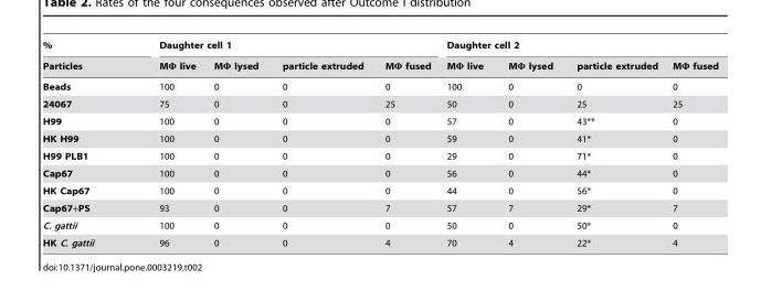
<table><thead><tr><td rowspan="2">% Particles</td><td colspan="4">Daughter cell 1</td><td colspan="4">Daughter cell 2</td></tr><tr><td>MΦ live</td><td>MΦ lysed</td><td>particle extruded</td><td>MΦ fused</td><td>MΦ live</td><td>MΦ lysed</td><td>particle extruded</td><td>MΦ fused</td></tr></thead><tbody><tr><td>Beads</td><td>100</td><td>0</td><td>0</td><td>0</td><td>100</td><td>0</td><td>0</td><td>0</td></tr><tr><td>24067</td><td>75</td><td>0</td><td>0</td><td>25</td><td>50</td><td>0</td><td>25</td><td>25</td></tr><tr><td>H99</td><td>100</td><td>0</td><td>0</td><td>0</td><td>57</td><td>0</td><td>43**</td><td>0</td></tr><tr><td>HK H99</td><td>100</td><td>0</td><td>0</td><td>0</td><td>59</td><td>0</td><td>41*</td><td>0</td></tr><tr><td>H99 PLB1</td><td>100</td><td>0</td><td>0</td><td>0</td><td>29</td><td>0</td><td>71*</td><td>0</td></tr><tr><td>Cap67</td><td>100</td><td>0</td><td>0</td><td>0</td><td>56</td><td>0</td><td>44*</td><td>0</td></tr><tr><td>HK Cap67</td><td>100</td><td>0</td><td>0</td><td>0</td><td>44</td><td>0</td><td>56*</td><td>0</td></tr><tr><td>Cap67+PS</td><td>93</td><td>0</td><td>0</td><td>7</td><td>57</td><td>7</td><td>29*</td><td>7</td></tr><tr><td>C. gattii</td><td>100</td><td>0</td><td>0</td><td>0</td><td>50</td><td>0</td><td>50*</td><td>0</td></tr><tr><td>HK C. gattii</td><td>96</td><td>0</td><td>0</td><td>4</td><td>70</td><td>4</td><td>22*</td><td>4</td></tr></tbody></table>